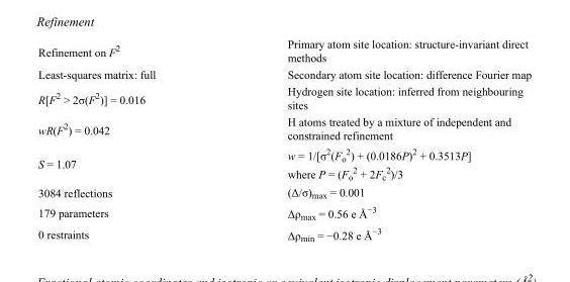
<table><tbody><tr><td>Refinement on F<sup>2</sup></td><td>Primary atom site location: structure-invariant direct methods</td></tr><tr><td>Least-squares matrix: full</td><td>Secondary atom site location: difference Fourier map</td></tr><tr><td>R[F<sup>2</sup> &gt; 2σ(F<sup>2</sup>)] = 0.016</td><td>Hydrogen site location: inferred from neighbouring sites</td></tr><tr><td>wR(F<sup>2</sup>) = 0.042</td><td>H atoms treated by a mixture of independent and constrained refinement</td></tr><tr><td>S = 1.07</td><td>w = 1/[σ<sup>2</sup>(F<sub>o</sub> <sup>2</sup>) + (0.0186P)<sup>2</sup> + 0.3513P] where P = (F<sub>o</sub> <sup>2</sup> + 2F<sub>c</sub> <sup>2</sup>)/3</td></tr><tr><td>3084 reflections</td><td>(Δ/σ)<sub>max</sub> = 0.001</td></tr><tr><td>179 parameters</td><td>Δρ<sub>max</sub> = 0.56 e Å<sup>−3</sup></td></tr><tr><td>0 restraints</td><td>Δρ<sub>min</sub> = −0.28 e Å<sup>−3</sup></td></tr></tbody></table>